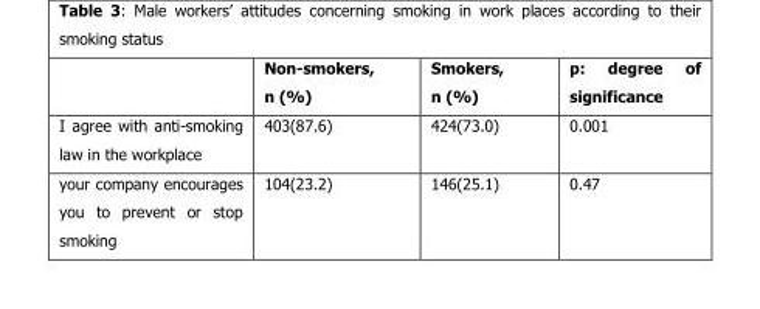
<table><thead><tr><td></td><td>Non-smokers, n (%)</td><td>Smokers, n (%)</td><td>p: degree of significance</td></tr></thead><tbody><tr><td>I agree with anti-smoking law in the workplace</td><td>403(87.6)</td><td>424(73.0)</td><td>0.001</td></tr><tr><td>your company encourages you to prevent or stop smoking</td><td>104(23.2)</td><td>146(25.1)</td><td>0.47</td></tr></tbody></table>